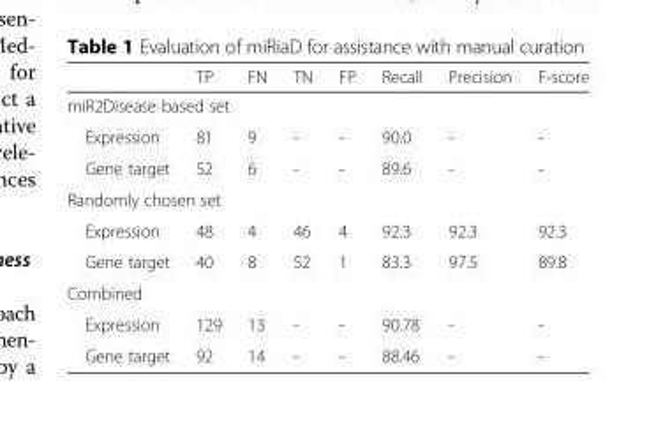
<table><thead><tr><td></td><td>TP</td><td>FN</td><td>TN</td><td>FP</td><td>Recall</td><td>Precision</td><td>F-score</td></tr></thead><tbody><tr><td colspan="8">miR2Disease based set</td></tr><tr><td>Expression</td><td>81</td><td>9</td><td>-</td><td>-</td><td>90.0</td><td>-</td><td>-</td></tr><tr><td>Gene target</td><td>52</td><td>6</td><td>-</td><td>-</td><td>89.6</td><td>-</td><td>-</td></tr><tr><td colspan="8">Randomly chosen set</td></tr><tr><td>Expression</td><td>48</td><td>4</td><td>46</td><td>4</td><td>92.3</td><td>92.3</td><td>92.3</td></tr><tr><td>Gene target</td><td>40</td><td>8</td><td>52</td><td>1</td><td>83.3</td><td>97.5</td><td>89.8</td></tr><tr><td colspan="8">Combined</td></tr><tr><td>Expression</td><td>129</td><td>13</td><td>-</td><td>-</td><td>90.78</td><td>-</td><td>-</td></tr><tr><td>Gene target</td><td>92</td><td>14</td><td>-</td><td>-</td><td>88.46</td><td>-</td><td>-</td></tr></tbody></table>